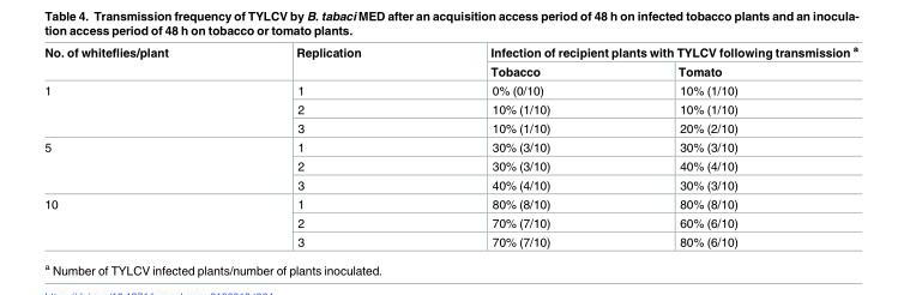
<table><thead><tr><td rowspan="2">No. of whiteflies/plant</td><td rowspan="2">Replication</td><td colspan="2">Infection of recipient plants with TYLCV following transmission <sup>a</sup></td></tr><tr><td>Tobacco</td><td>Tomato</td></tr></thead><tbody><tr><td rowspan="3">1</td><td>1</td><td>0% (0/10)</td><td>10% (1/10)</td></tr><tr><td>2</td><td>10% (1/10)</td><td>10% (1/10)</td></tr><tr><td>3</td><td>10% (1/10)</td><td>20% (2/10)</td></tr><tr><td rowspan="3">5</td><td>1</td><td>30% (3/10)</td><td>30% (3/10)</td></tr><tr><td>2</td><td>30% (3/10)</td><td>40% (4/10)</td></tr><tr><td>3</td><td>40% (4/10)</td><td>30% (3/10)</td></tr><tr><td rowspan="3">10</td><td>1</td><td>80% (8/10)</td><td>80% (8/10)</td></tr><tr><td>2</td><td>70% (7/10)</td><td>60% (6/10)</td></tr><tr><td>3</td><td>70% (7/10)</td><td>80% (6/10)</td></tr></tbody></table>